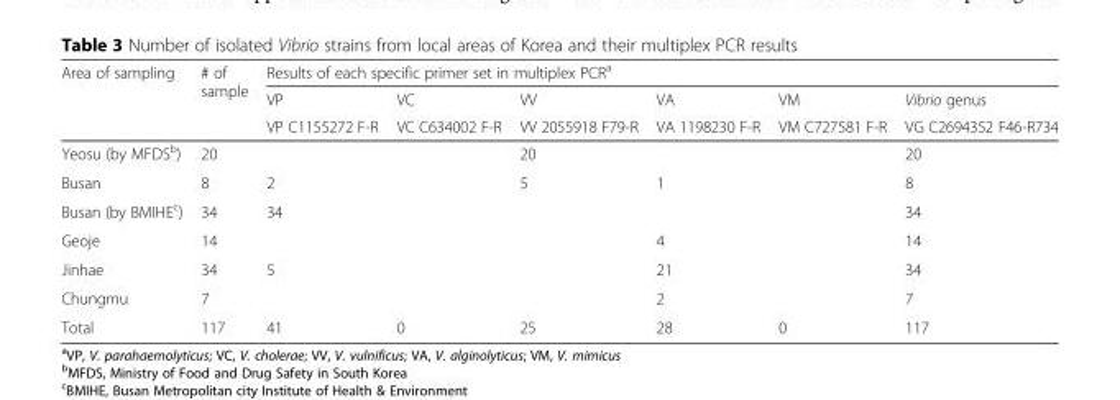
<table><thead><tr><td rowspan="3">Area of sampling</td><td rowspan="3"># of sample</td><td colspan="6">Results of each specific primer set in multiplex PCR<sup>a</sup></td></tr><tr><td rowspan="2">VP VP C1155272 F-R</td><td rowspan="2">VC VC C634002 F-R</td><td rowspan="2">VV VV 2055918 F79-R</td><td rowspan="2">VA VA 1198230 F-R</td><td rowspan="2">VM VM C727581 F-R</td><td rowspan="2">Vibrio genus VG C2694352 F46-R734</td></tr><tr></tr></thead><tbody><tr><td>Yeosu (by MFDS<sup>b</sup>)</td><td>20</td><td></td><td></td><td>20</td><td></td><td></td><td>20</td></tr><tr><td>Busan</td><td>8</td><td>2</td><td></td><td>5</td><td>1</td><td></td><td>8</td></tr><tr><td>Busan (by BMIHE<sup>c</sup>)</td><td>34</td><td>34</td><td></td><td></td><td></td><td></td><td>34</td></tr><tr><td>Geoje</td><td>14</td><td></td><td></td><td></td><td>4</td><td></td><td>14</td></tr><tr><td>Jinhae</td><td>34</td><td>5</td><td></td><td></td><td>21</td><td></td><td>34</td></tr><tr><td>Chungmu</td><td>7</td><td></td><td></td><td></td><td>2</td><td></td><td>7</td></tr><tr><td>Total</td><td>117</td><td>41</td><td>0</td><td>25</td><td>28</td><td>0</td><td>117</td></tr></tbody></table>